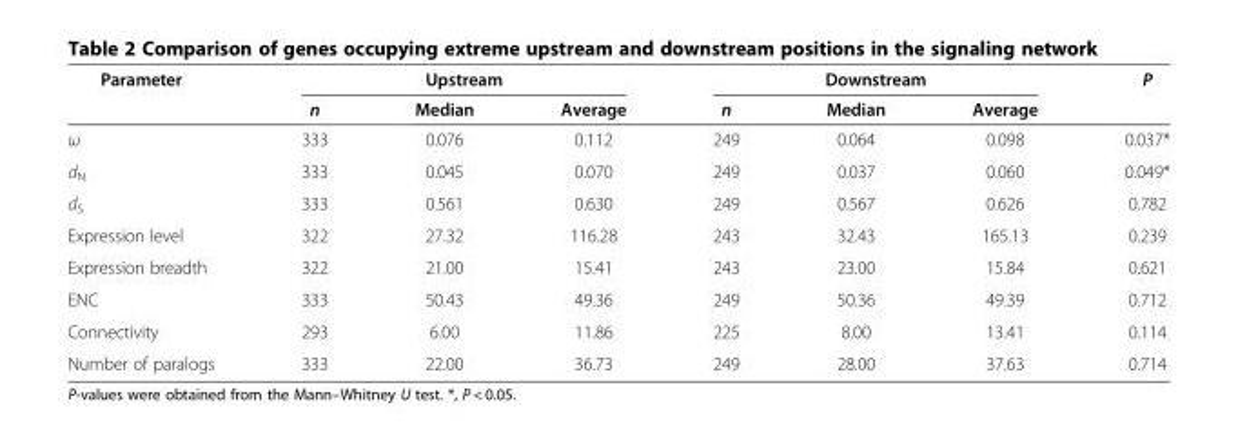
<table><thead><tr><td rowspan="2">Parameter</td><td colspan="3">Upstream</td><td colspan="3">Downstream</td><td rowspan="2">P</td></tr><tr><td>n</td><td>Median</td><td>Average</td><td>n</td><td>Median</td><td>Average</td></tr></thead><tbody><tr><td>ω</td><td>333</td><td>0.076</td><td>0.112</td><td>249</td><td>0.064</td><td>0.098</td><td>0.037*</td></tr><tr><td>d<sub>N</sub></td><td>333</td><td>0.045</td><td>0.070</td><td>249</td><td>0.037</td><td>0.060</td><td>0.049*</td></tr><tr><td>d<sub>S</sub></td><td>333</td><td>0.561</td><td>0.630</td><td>249</td><td>0.567</td><td>0.626</td><td>0.782</td></tr><tr><td>Expression level</td><td>322</td><td>27.32</td><td>116.28</td><td>243</td><td>32.43</td><td>165.13</td><td>0.239</td></tr><tr><td>Expression breadth</td><td>322</td><td>21.00</td><td>15.41</td><td>243</td><td>23.00</td><td>15.84</td><td>0.621</td></tr><tr><td>ENC</td><td>333</td><td>50.43</td><td>49.36</td><td>249</td><td>50.36</td><td>49.39</td><td>0.712</td></tr><tr><td>Connectivity</td><td>293</td><td>6.00</td><td>11.86</td><td>225</td><td>8.00</td><td>13.41</td><td>0.114</td></tr><tr><td>Number of paralogs</td><td>333</td><td>22.00</td><td>36.73</td><td>249</td><td>28.00</td><td>37.63</td><td>0.714</td></tr></tbody></table>